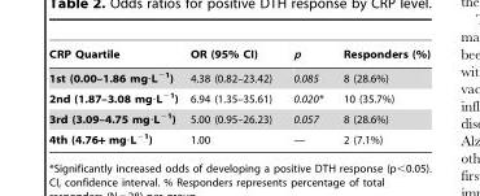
<table><thead><tr><td>CRP Quartile</td><td>OR (95% CI)</td><td>p</td><td>Responders (%)</td></tr></thead><tbody><tr><td>1st (0.00–1.86 mg·L<sup>−1</sup>)</td><td>4.38 (0.82–23.42)</td><td>0.085</td><td>8 (28.6%)</td></tr><tr><td>2nd (1.87–3.08 mg·L<sup>−1</sup>)</td><td>6.94 (1.35–35.61)</td><td>0.020*</td><td>10 (35.7%)</td></tr><tr><td>3rd (3.09–4.75 mg·L<sup>−1</sup>)</td><td>5.00 (0.95–26.23)</td><td>0.057</td><td>8 (28.6%)</td></tr><tr><td>4th (4.76+ mg·L<sup>−1</sup>)</td><td>1.00</td><td>—</td><td>2 (7.1%)</td></tr></tbody></table>